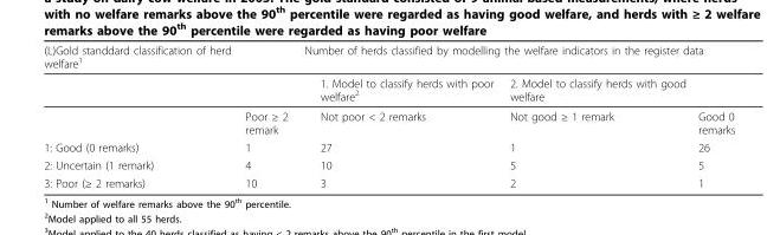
<table><thead><tr><td rowspan="2">(L)Gold standdard classification of herd welfare<sup>1</sup></td><td colspan="4">Number of herds classified by modelling the welfare indicators in the register data</td></tr><tr><td></td><td>1. Model to classify herds with poor welfare<sup>2</sup></td><td>2. Model to classify herds with good welfare</td><td></td></tr></thead><tbody><tr><td></td><td>Poor ≥ 2 remark</td><td>Not poor &lt; 2 remarks</td><td>Not good ≥ 1 remark</td><td>Good 0 remarks</td></tr><tr><td>1: Good (0 remarks)</td><td>1</td><td>27</td><td>1</td><td>26</td></tr><tr><td>2: Uncertain (1 remark)</td><td>4</td><td>10</td><td>5</td><td>5</td></tr><tr><td>3: Poor (≥ 2 remarks)</td><td>10</td><td>3</td><td>2</td><td>1</td></tr></tbody></table>